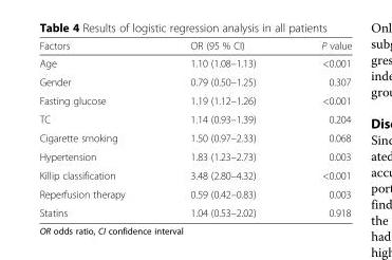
<table><thead><tr><td>Factors</td><td>OR (95 % CI)</td><td>P value</td></tr></thead><tbody><tr><td>Age</td><td>1.10 (1.08–1.13)</td><td>&lt;0.001</td></tr><tr><td>Gender</td><td>0.79 (0.50–1.25)</td><td>0.307</td></tr><tr><td>Fasting glucose</td><td>1.19 (1.12–1.26)</td><td>&lt;0.001</td></tr><tr><td>TC</td><td>1.14 (0.93–1.39)</td><td>0.204</td></tr><tr><td>Cigarette smoking</td><td>1.50 (0.97–2.33)</td><td>0.068</td></tr><tr><td>Hypertension</td><td>1.83 (1.23–2.73)</td><td>0.003</td></tr><tr><td>Killip classification</td><td>3.48 (2.80–4.32)</td><td>&lt;0.001</td></tr><tr><td>Reperfusion therapy</td><td>0.59 (0.42–0.83)</td><td>0.003</td></tr><tr><td>Statins</td><td>1.04 (0.53–2.02)</td><td>0.918</td></tr></tbody></table>